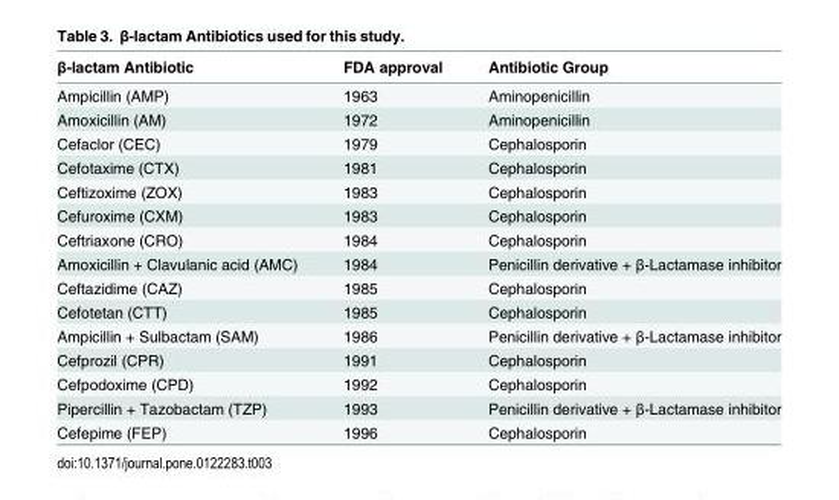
<table><thead><tr><td>β-lactam Antibiotic</td><td>FDA approval</td><td>Antibiotic Group</td></tr></thead><tbody><tr><td>Ampicillin (AMP)</td><td>1963</td><td>Aminopenicillin</td></tr><tr><td>Amoxicillin (AM)</td><td>1972</td><td>Aminopenicillin</td></tr><tr><td>Cefaclor (CEC)</td><td>1979</td><td>Cephalosporin</td></tr><tr><td>Cefotaxime (CTX)</td><td>1981</td><td>Cephalosporin</td></tr><tr><td>Ceftizoxime (ZOX)</td><td>1983</td><td>Cephalosporin</td></tr><tr><td>Cefuroxime (CXM)</td><td>1983</td><td>Cephalosporin</td></tr><tr><td>Ceftriaxone (CRO)</td><td>1984</td><td>Cephalosporin</td></tr><tr><td>Amoxicillin + Clavulanic acid (AMC)</td><td>1984</td><td>Penicillin derivative + β-Lactamase inhibitor</td></tr><tr><td>Ceftazidime (CAZ)</td><td>1985</td><td>Cephalosporin</td></tr><tr><td>Cefotetan (CTT)</td><td>1985</td><td>Cephalosporin</td></tr><tr><td>Ampicillin + Sulbactam (SAM)</td><td>1986</td><td>Penicillin derivative + β-Lactamase inhibitor</td></tr><tr><td>Cefprozil (CPR)</td><td>1991</td><td>Cephalosporin</td></tr><tr><td>Cefpodoxime (CPD)</td><td>1992</td><td>Cephalosporin</td></tr><tr><td>Pipercillin + Tazobactam (TZP)</td><td>1993</td><td>Penicillin derivative + β-Lactamase inhibitor</td></tr><tr><td>Cefepime (FEP)</td><td>1996</td><td>Cephalosporin</td></tr></tbody></table>